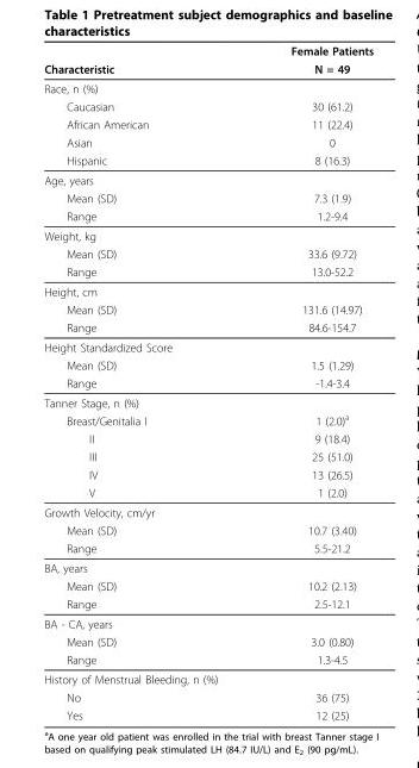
<table><thead><tr><td rowspan="2">Characteristic</td><td rowspan="2">Female Patients N = 49</td></tr><tr></tr></thead><tbody><tr><td colspan="2">Race, n (%)</td></tr><tr><td>Caucasian</td><td>30 (61.2)</td></tr><tr><td>African American</td><td>11 (22.4)</td></tr><tr><td>Asian</td><td>0</td></tr><tr><td>Hispanic</td><td>8 (16.3)</td></tr><tr><td colspan="2">Age, years</td></tr><tr><td>Mean (SD)</td><td>7.3 (1.9)</td></tr><tr><td>Range</td><td>1.2-9.4</td></tr><tr><td colspan="2">Weight, kg</td></tr><tr><td>Mean (SD)</td><td>33.6 (9.72)</td></tr><tr><td>Range</td><td>13.0-52.2</td></tr><tr><td colspan="2">Height, cm</td></tr><tr><td>Mean (SD)</td><td>131.6 (14.97)</td></tr><tr><td>Range</td><td>84.6-154.7</td></tr><tr><td colspan="2">Height Standardized Score</td></tr><tr><td>Mean (SD)</td><td>1.5 (1.29)</td></tr><tr><td>Range</td><td>-1.4-3.4</td></tr><tr><td colspan="2">Tanner Stage, n (%)</td></tr><tr><td>Breast/Genitalia I</td><td>1 (2.0)<sup>a</sup></td></tr><tr><td>II</td><td>9 (18.4)</td></tr><tr><td>III</td><td>25 (51.0)</td></tr><tr><td>IV</td><td>13 (26.5)</td></tr><tr><td>V</td><td>1 (2.0)</td></tr><tr><td colspan="2">Growth Velocity, cm/yr</td></tr><tr><td>Mean (SD)</td><td>10.7 (3.40)</td></tr><tr><td>Range</td><td>5.5-21.2</td></tr><tr><td colspan="2">BA, years</td></tr><tr><td>Mean (SD)</td><td>10.2 (2.13)</td></tr><tr><td>Range</td><td>2.5-12.1</td></tr><tr><td colspan="2">BA - CA, years</td></tr><tr><td>Mean (SD)</td><td>3.0 (0.80)</td></tr><tr><td>Range</td><td>1.3-4.5</td></tr><tr><td colspan="2">History of Menstrual Bleeding, n (%)</td></tr><tr><td>No</td><td>36 (75)</td></tr><tr><td>Yes</td><td>12 (25)</td></tr></tbody></table>